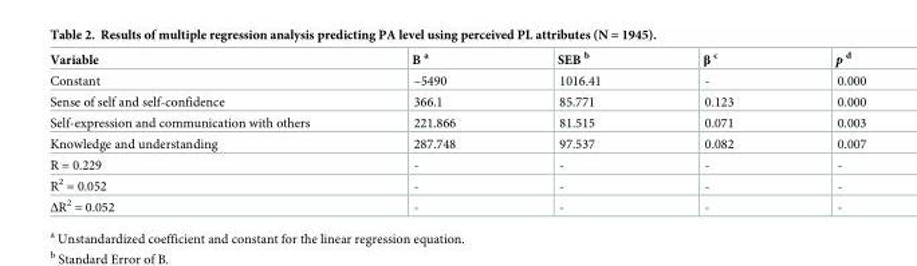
<table><thead><tr><td>Variable</td><td>B <sup>a</sup></td><td>SEB <sup>b</sup></td><td>β <sup>c</sup></td><td>p <sup>d</sup></td></tr></thead><tbody><tr><td>Constant</td><td>–5490</td><td>1016.41</td><td>-</td><td>0.000</td></tr><tr><td>Sense of self and self-confidence</td><td>366.1</td><td>85.771</td><td>0.123</td><td>0.000</td></tr><tr><td>Self-expression and communication with others</td><td>221.866</td><td>81.515</td><td>0.071</td><td>0.003</td></tr><tr><td>Knowledge and understanding</td><td>287.748</td><td>97.537</td><td>0.082</td><td>0.007</td></tr><tr><td>R = 0.229</td><td>-</td><td>-</td><td>-</td><td>-</td></tr><tr><td>R<sup>2</sup> = 0.052</td><td>-</td><td>-</td><td>-</td><td>-</td></tr><tr><td>ΔR<sup>2</sup> = 0.052</td><td>-</td><td>-</td><td>-</td><td>-</td></tr></tbody></table>